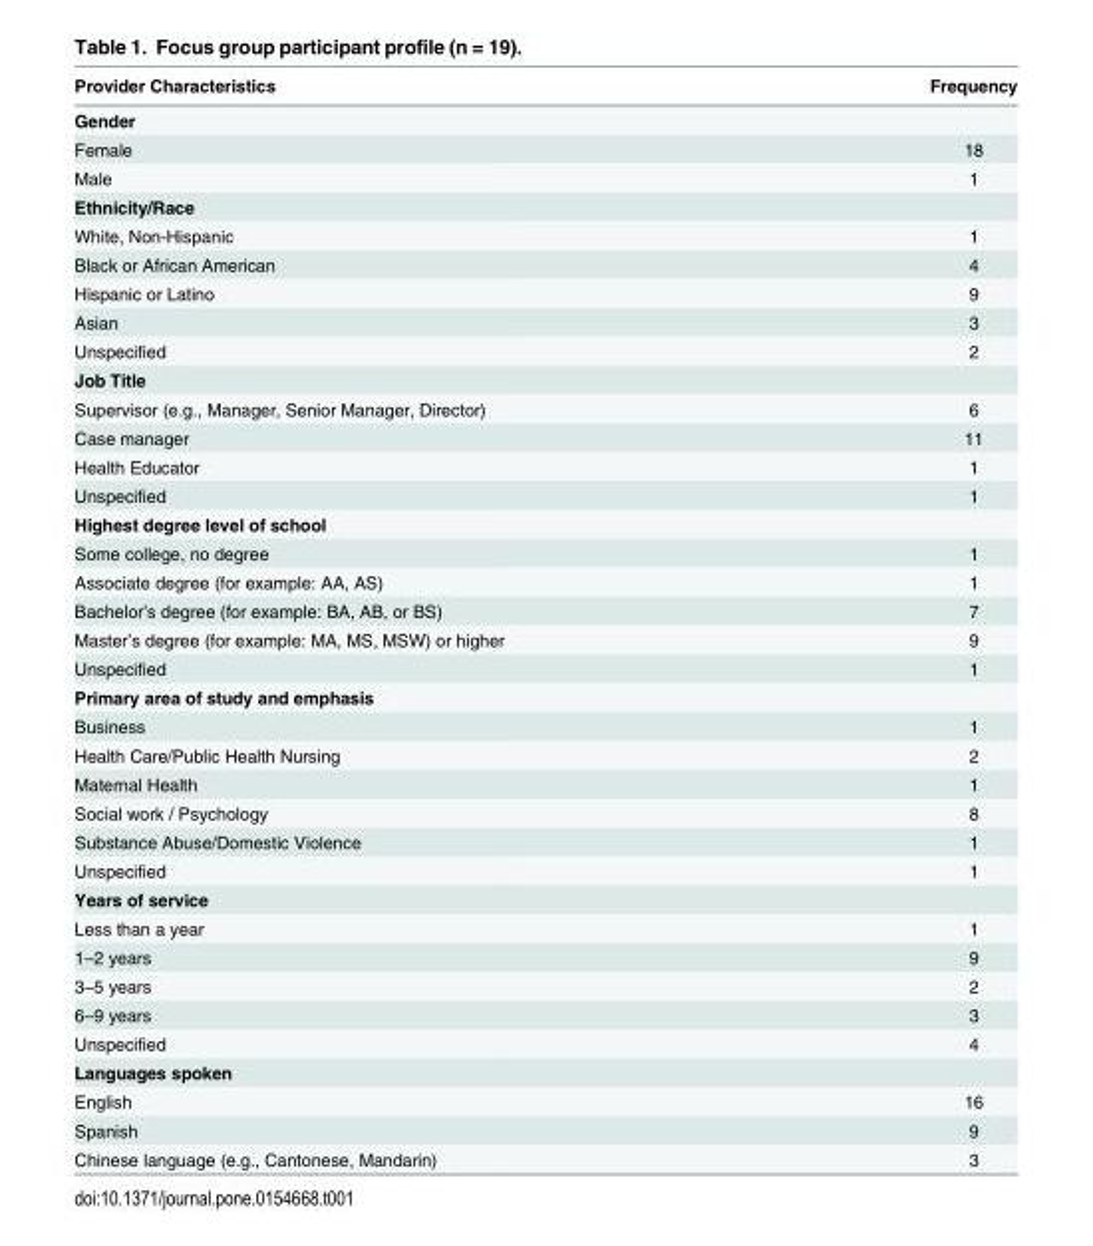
<table><thead><tr><td>Provider Characteristics</td><td>Frequency</td></tr></thead><tbody><tr><td colspan="2">Gender</td></tr><tr><td>Female</td><td>18</td></tr><tr><td>Male</td><td>1</td></tr><tr><td colspan="2">Ethnicity/Race</td></tr><tr><td>White, Non-Hispanic</td><td>1</td></tr><tr><td>Black or African American</td><td>4</td></tr><tr><td>Hispanic or Latino</td><td>9</td></tr><tr><td>Asian</td><td>3</td></tr><tr><td>Unspecified</td><td>2</td></tr><tr><td colspan="2">Job Title</td></tr><tr><td>Supervisor (e.g., Manager, Senior Manager, Director)</td><td>6</td></tr><tr><td>Case manager</td><td>11</td></tr><tr><td>Health Educator</td><td>1</td></tr><tr><td>Unspecified</td><td>1</td></tr><tr><td colspan="2">Highest degree level of school</td></tr><tr><td>Some college, no degree</td><td>1</td></tr><tr><td>Associate degree (for example: AA, AS)</td><td>1</td></tr><tr><td>Bachelor’s degree (for example: BA, AB, or BS)</td><td>7</td></tr><tr><td>Master’s degree (for example: MA, MS, MSW) or higher</td><td>9</td></tr><tr><td>Unspecified</td><td>1</td></tr><tr><td colspan="2">Primary area of study and emphasis</td></tr><tr><td>Business</td><td>1</td></tr><tr><td>Health Care/Public Health Nursing</td><td>2</td></tr><tr><td>Maternal Health</td><td>1</td></tr><tr><td>Social work / Psychology</td><td>8</td></tr><tr><td>Substance Abuse/Domestic Violence</td><td>1</td></tr><tr><td>Unspecified</td><td>1</td></tr><tr><td colspan="2">Years of service</td></tr><tr><td>Less than a year</td><td>1</td></tr><tr><td>1–2 years</td><td>9</td></tr><tr><td>3–5 years</td><td>2</td></tr><tr><td>6–9 years</td><td>3</td></tr><tr><td>Unspecified</td><td>4</td></tr><tr><td colspan="2">Languages spoken</td></tr><tr><td>English</td><td>16</td></tr><tr><td>Spanish</td><td>9</td></tr><tr><td>Chinese language (e.g., Cantonese, Mandarin)</td><td>3</td></tr></tbody></table>